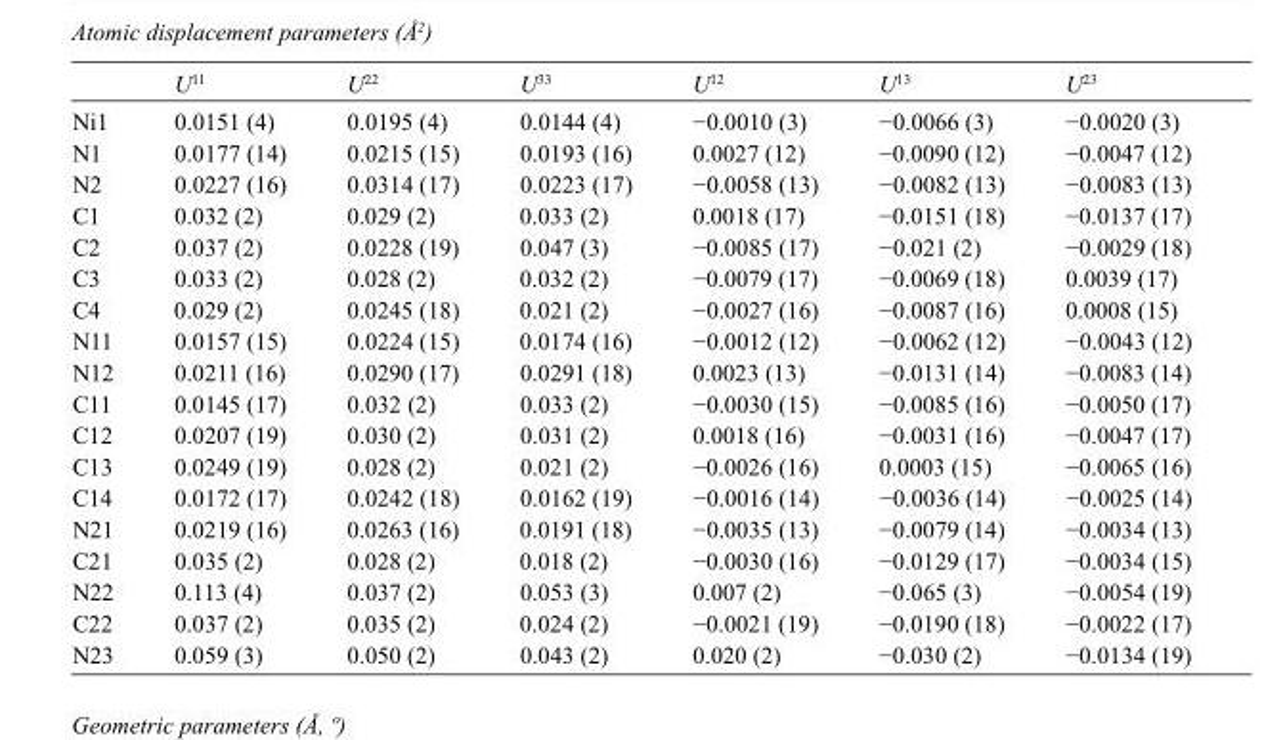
<table><thead><tr><td></td><td>U<sup>11</sup></td><td>U<sup>22</sup></td><td>U<sup>33</sup></td><td>U<sup>12</sup></td><td>U<sup>13</sup></td><td>U<sup>23</sup></td></tr></thead><tbody><tr><td>Ni1</td><td>0.0151 (4)</td><td>0.0195 (4)</td><td>0.0144 (4)</td><td>−0.0010 (3)</td><td>−0.0066 (3)</td><td>−0.0020 (3)</td></tr><tr><td>N1</td><td>0.0177 (14)</td><td>0.0215 (15)</td><td>0.0193 (16)</td><td>0.0027 (12)</td><td>−0.0090 (12)</td><td>−0.0047 (12)</td></tr><tr><td>N2</td><td>0.0227 (16)</td><td>0.0314 (17)</td><td>0.0223 (17)</td><td>−0.0058 (13)</td><td>−0.0082 (13)</td><td>−0.0083 (13)</td></tr><tr><td>C1</td><td>0.032 (2)</td><td>0.029 (2)</td><td>0.033 (2)</td><td>0.0018 (17)</td><td>−0.0151 (18)</td><td>−0.0137 (17)</td></tr><tr><td>C2</td><td>0.037 (2)</td><td>0.0228 (19)</td><td>0.047 (3)</td><td>−0.0085 (17)</td><td>−0.021 (2)</td><td>−0.0029 (18)</td></tr><tr><td>C3</td><td>0.033 (2)</td><td>0.028 (2)</td><td>0.032 (2)</td><td>−0.0079 (17)</td><td>−0.0069 (18)</td><td>0.0039 (17)</td></tr><tr><td>C4</td><td>0.029 (2)</td><td>0.0245 (18)</td><td>0.021 (2)</td><td>−0.0027 (16)</td><td>−0.0087 (16)</td><td>0.0008 (15)</td></tr><tr><td>N11</td><td>0.0157 (15)</td><td>0.0224 (15)</td><td>0.0174 (16)</td><td>−0.0012 (12)</td><td>−0.0062 (12)</td><td>−0.0043 (12)</td></tr><tr><td>N12</td><td>0.0211 (16)</td><td>0.0290 (17)</td><td>0.0291 (18)</td><td>0.0023 (13)</td><td>−0.0131 (14)</td><td>−0.0083 (14)</td></tr><tr><td>C11</td><td>0.0145 (17)</td><td>0.032 (2)</td><td>0.033 (2)</td><td>−0.0030 (15)</td><td>−0.0085 (16)</td><td>−0.0050 (17)</td></tr><tr><td>C12</td><td>0.0207 (19)</td><td>0.030 (2)</td><td>0.031 (2)</td><td>0.0018 (16)</td><td>−0.0031 (16)</td><td>−0.0047 (17)</td></tr><tr><td>C13</td><td>0.0249 (19)</td><td>0.028 (2)</td><td>0.021 (2)</td><td>−0.0026 (16)</td><td>0.0003 (15)</td><td>−0.0065 (16)</td></tr><tr><td>C14</td><td>0.0172 (17)</td><td>0.0242 (18)</td><td>0.0162 (19)</td><td>−0.0016 (14)</td><td>−0.0036 (14)</td><td>−0.0025 (14)</td></tr><tr><td>N21</td><td>0.0219 (16)</td><td>0.0263 (16)</td><td>0.0191 (18)</td><td>−0.0035 (13)</td><td>−0.0079 (14)</td><td>−0.0034 (13)</td></tr><tr><td>C21</td><td>0.035 (2)</td><td>0.028 (2)</td><td>0.018 (2)</td><td>−0.0030 (16)</td><td>−0.0129 (17)</td><td>−0.0034 (15)</td></tr><tr><td>N22</td><td>0.113 (4)</td><td>0.037 (2)</td><td>0.053 (3)</td><td>0.007 (2)</td><td>−0.065 (3)</td><td>−0.0054 (19)</td></tr><tr><td>C22</td><td>0.037 (2)</td><td>0.035 (2)</td><td>0.024 (2)</td><td>−0.0021 (19)</td><td>−0.0190 (18)</td><td>−0.0022 (17)</td></tr><tr><td>N23</td><td>0.059 (3)</td><td>0.050 (2)</td><td>0.043 (2)</td><td>0.020 (2)</td><td>−0.030 (2)</td><td>−0.0134 (19)</td></tr></tbody></table>